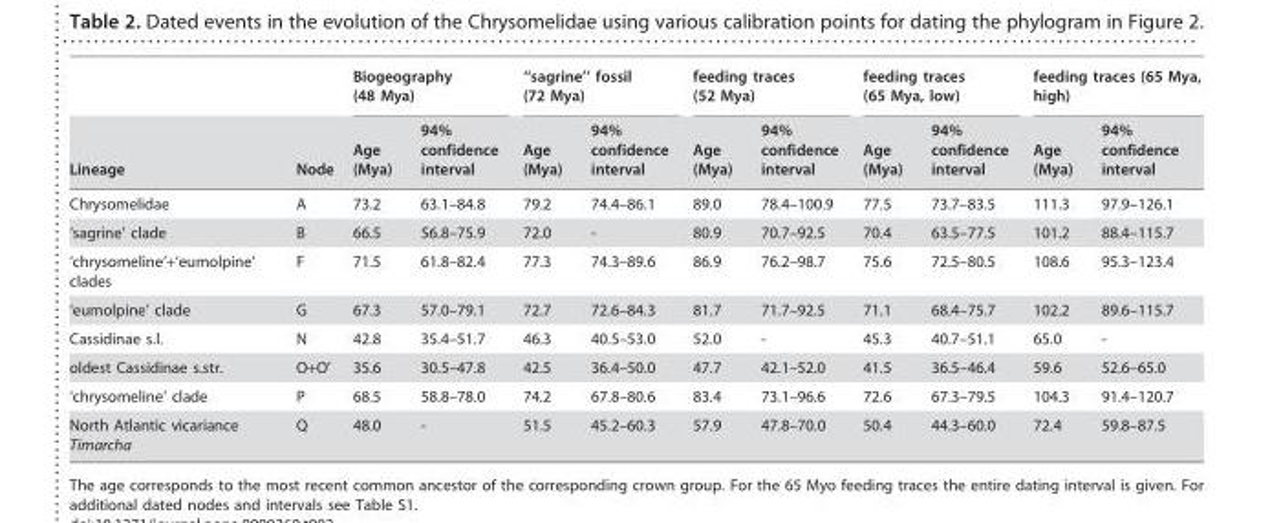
<table><thead><tr><td rowspan="2">Lineage</td><td rowspan="2">Node</td><td colspan="2">Biogeography (48 Mya)</td><td colspan="2">‘‘sagrine’’ fossil (72 Mya)</td><td colspan="2">feeding traces (52 Mya)</td><td colspan="2">feeding traces (65 Mya, low)</td><td colspan="2">feeding traces (65 Mya, high)</td></tr><tr><td>Age (Mya)</td><td>94% confidence interval</td><td>Age (Mya)</td><td>94% confidence interval</td><td>Age (Mya)</td><td>94% confidence interval</td><td>Age (Mya)</td><td>94% confidence interval</td><td>Age (Mya)</td><td>94% confidence interval</td></tr></thead><tbody><tr><td>Chrysomelidae</td><td>A</td><td>73.2</td><td>63.1–84.8</td><td>79.2</td><td>74.4–86.1</td><td>89.0</td><td>78.4–100.9</td><td>77.5</td><td>73.7–83.5</td><td>111.3</td><td>97.9–126.1</td></tr><tr><td>‘sagrine’ clade</td><td>B</td><td>66.5</td><td>56.8–75.9</td><td>72.0</td><td>-</td><td>80.9</td><td>70.7–92.5</td><td>70.4</td><td>63.5–77.5</td><td>101.2</td><td>88.4–115.7</td></tr><tr><td>‘chrysomeline’+‘eumolpine’ clades</td><td>F</td><td>71.5</td><td>61.8–82.4</td><td>77.3</td><td>74.3–89.6</td><td>86.9</td><td>76.2–98.7</td><td>75.6</td><td>72.5–80.5</td><td>108.6</td><td>95.3–123.4</td></tr><tr><td>‘eumolpine’ clade</td><td>G</td><td>67.3</td><td>57.0–79.1</td><td>72.7</td><td>72.6–84.3</td><td>81.7</td><td>71.7–92.5</td><td>71.1</td><td>68.4–75.7</td><td>102.2</td><td>89.6–115.7</td></tr><tr><td>Cassidinae s.l.</td><td>N</td><td>42.8</td><td>35.4–51.7</td><td>46.3</td><td>40.5–53.0</td><td>52.0</td><td>-</td><td>45.3</td><td>40.7–51.1</td><td>65.0</td><td>-</td></tr><tr><td>oldest Cassidinae s.str.</td><td>O+O’</td><td>35.6</td><td>30.5–47.8</td><td>42.5</td><td>36.4–50.0</td><td>47.7</td><td>42.1–52.0</td><td>41.5</td><td>36.5–46.4</td><td>59.6</td><td>52.6–65.0</td></tr><tr><td>‘chrysomeline’ clade</td><td>P</td><td>68.5</td><td>58.8–78.0</td><td>74.2</td><td>67.8–80.6</td><td>83.4</td><td>73.1–96.6</td><td>72.6</td><td>67.3–79.5</td><td>104.3</td><td>91.4–120.7</td></tr><tr><td>North Atlantic vicariance Timarcha</td><td>Q</td><td>48.0</td><td>-</td><td>51.5</td><td>45.2–60.3</td><td>57.9</td><td>47.8–70.0</td><td>50.4</td><td>44.3–60.0</td><td>72.4</td><td>59.8–87.5</td></tr></tbody></table>